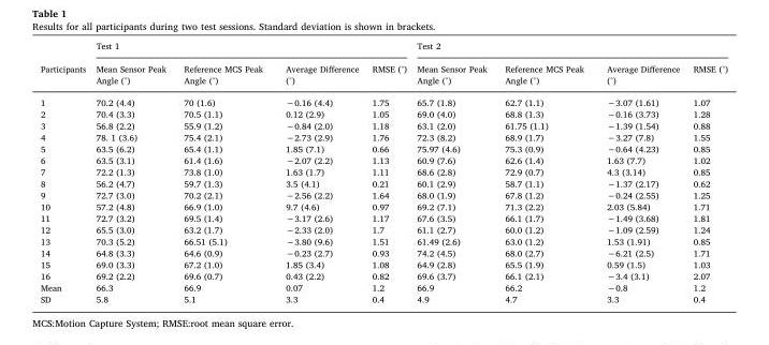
<table><thead><tr><td rowspan="2">Participants</td><td colspan="4">Test 1</td><td colspan="4">Test 2</td></tr><tr><td>Mean Sensor Peak Angle (°)</td><td>Reference MCS Peak Angle (°)</td><td>Average Difference (°)</td><td>RMSE (°)</td><td>Mean Sensor Peak Angle (°)</td><td>Reference MCS Peak Angle (°)</td><td>Average Difference (°)</td><td>RMSE (°)</td></tr></thead><tbody><tr><td>1</td><td>70.2 (4.4)</td><td>70 (1.6)</td><td>−0.16 (4.4)</td><td>1.75</td><td>65.7 (1.8)</td><td>62.7 (1.1)</td><td>−3.07 (1.61)</td><td>1.07</td></tr><tr><td>2</td><td>70.4 (3.3)</td><td>70.5 (1.1)</td><td>0.12 (2.9)</td><td>1.05</td><td>69.0 (4.0)</td><td>68.8 (1.3)</td><td>−0.16 (3.73)</td><td>1.28</td></tr><tr><td>3</td><td>56.8 (2.2)</td><td>55.9 (1.2)</td><td>−0.84 (2.0)</td><td>1.18</td><td>63.1 (2.0)</td><td>61.75 (1.1)</td><td>−1.39 (1.54)</td><td>0.88</td></tr><tr><td>4</td><td>78. 1 (3.6)</td><td>75.4 (2.1)</td><td>−2.73 (2.9)</td><td>1.76</td><td>72.3 (8.2)</td><td>68.9 (1.7)</td><td>−3.27 (7.8)</td><td>1.55</td></tr><tr><td>5</td><td>63.5 (6.2)</td><td>65.4 (1.1)</td><td>1.85 (7.1)</td><td>0.66</td><td>75.97 (4.6)</td><td>75.3 (0.9)</td><td>−0.64 (4.23)</td><td>0.85</td></tr><tr><td>6</td><td>63.5 (3.1)</td><td>61.4 (1.6)</td><td>−2.07 (2.2)</td><td>1.13</td><td>60.9 (7.6)</td><td>62.6 (1.4)</td><td>1.63 (7.7)</td><td>1.02</td></tr><tr><td>7</td><td>72.2 (1.3)</td><td>73.8 (1.0)</td><td>1.63 (1.7)</td><td>1.11</td><td>68.6 (2.8)</td><td>72.9 (0.7)</td><td>4.3 (3.14)</td><td>0.85</td></tr><tr><td>8</td><td>56.2 (4.7)</td><td>59.7 (1.3)</td><td>3.5 (4.1)</td><td>0.21</td><td>60.1 (2.9)</td><td>58.7 (1.1)</td><td>−1.37 (2.17)</td><td>0.62</td></tr><tr><td>9</td><td>72.7 (3.0)</td><td>70.2 (2.1)</td><td>−2.56 (2.2)</td><td>1.64</td><td>68.0 (1.9)</td><td>67.8 (1.2)</td><td>−0.24 (2.55)</td><td>1.25</td></tr><tr><td>10</td><td>57.2 (4.8)</td><td>66.9 (1.0)</td><td>9.7 (4.6)</td><td>0.97</td><td>69.2 (7.1)</td><td>71.3 (2.2)</td><td>2.03 (5.84)</td><td>1.71</td></tr><tr><td>11</td><td>72.7 (3.2)</td><td>69.5 (1.4)</td><td>−3.17 (2.6)</td><td>1.17</td><td>67.6 (3.5)</td><td>66.1 (1.7)</td><td>−1.49 (3.68)</td><td>1.81</td></tr><tr><td>12</td><td>65.5 (3.0)</td><td>63.2 (1.7)</td><td>−2.33 (2.0)</td><td>1.7</td><td>61.1 (2.7)</td><td>60.0 (1.2)</td><td>−1.09 (2.59)</td><td>1.24</td></tr><tr><td>13</td><td>70.3 (5.2)</td><td>66.51 (5.1)</td><td>−3.80 (9.6)</td><td>1.51</td><td>61.49 (2.6)</td><td>63.0 (1.2)</td><td>1.53 (1.91)</td><td>0.85</td></tr><tr><td>14</td><td>64.8 (3.3)</td><td>64.6 (0.9)</td><td>−0.23 (2.7)</td><td>0.93</td><td>74.2 (4.5)</td><td>68.0 (2.7)</td><td>−6.21 (2.5)</td><td>1.71</td></tr><tr><td>15</td><td>69.0 (3.3)</td><td>67.2 (1.0)</td><td>1.85 (3.4)</td><td>1.08</td><td>64.9 (2.8)</td><td>65.5 (1.9)</td><td>0.59 (1.5)</td><td>1.03</td></tr><tr><td>16</td><td>69.2 (2.2)</td><td>69.6 (0.7)</td><td>0.43 (2.2)</td><td>0.82</td><td>69.6 (3.7)</td><td>66.1 (2.1)</td><td>−3.4 (3.1)</td><td>2.07</td></tr><tr><td>Mean</td><td>66.3</td><td>66.9</td><td>0.07</td><td>1.2</td><td>66.9</td><td>66.2</td><td>−0.8</td><td>1.2</td></tr><tr><td>SD</td><td>5.8</td><td>5.1</td><td>3.3</td><td>0.4</td><td>4.9</td><td>4.7</td><td>3.3</td><td>0.4</td></tr></tbody></table>